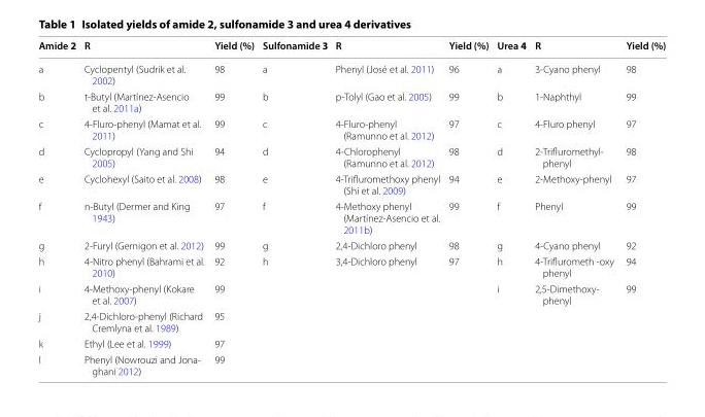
<table><thead><tr><td>Amide 2</td><td>R</td><td>Yield (%)</td><td>Sulfonamide 3</td><td>R</td><td>Yield (%)</td><td>Urea 4</td><td>R</td><td>Yield (%)</td></tr></thead><tbody><tr><td>a</td><td>Cyclopentyl (Sudrik et al. 2002)</td><td>98</td><td>a</td><td>Phenyl (José et al. 2011)</td><td>96</td><td>a</td><td>3-Cyano phenyl</td><td>98</td></tr><tr><td>b</td><td>t-Butyl (Martínez-Asencio et al. 2011a)</td><td>99</td><td>b</td><td>p-Tolyl (Gao et al. 2005)</td><td>99</td><td>b</td><td>1-Naphthyl</td><td>99</td></tr><tr><td>c</td><td>4-Fluro-phenyl (Mamat et al. 2011)</td><td>99</td><td>c</td><td>4-Fluro-phenyl (Ramunno et al. 2012)</td><td>97</td><td>c</td><td>4-Fluro phenyl</td><td>97</td></tr><tr><td>d</td><td>Cyclopropyl (Yang and Shi 2005)</td><td>94</td><td>d</td><td>4-Chlorophenyl (Ramunno et al. 2012)</td><td>98</td><td>d</td><td>2-Trifluromethyl- phenyl</td><td>98</td></tr><tr><td>e</td><td>Cyclohexyl (Saito et al. 2008)</td><td>98</td><td>e</td><td>4-Trifluromethoxy phenyl (Shi et al. 2009)</td><td>94</td><td>e</td><td>2-Methoxy-phenyl</td><td>97</td></tr><tr><td>f</td><td>n-Butyl (Dermer and King 1943)</td><td>97</td><td>f</td><td>4-Methoxy phenyl (Martínez-Asencio et al. 2011b)</td><td>99</td><td>f</td><td>Phenyl</td><td>99</td></tr><tr><td>g</td><td>2-Furyl (Gernigon et al. 2012)</td><td>99</td><td>g</td><td>2,4-Dichloro phenyl</td><td>98</td><td>g</td><td>4-Cyano phenyl</td><td>92</td></tr><tr><td>h</td><td>4-Nitro phenyl (Bahrami et al. 2010)</td><td>92</td><td>h</td><td>3,4-Dichloro phenyl</td><td>97</td><td>h</td><td>4-Triflurometh -oxy phenyl</td><td>94</td></tr><tr><td>i</td><td>4-Methoxy-phenyl (Kokare et al. 2007)</td><td>99</td><td></td><td></td><td></td><td>i</td><td>2,5-Dimethoxy- phenyl</td><td>99</td></tr><tr><td>j</td><td>2,4-Dichloro-phenyl (Richard Cremlyna et al. 1989)</td><td>95</td><td></td><td></td><td></td><td></td><td></td><td></td></tr><tr><td>k</td><td>Ethyl (Lee et al. 1999)</td><td>97</td><td></td><td></td><td></td><td></td><td></td><td></td></tr><tr><td>l</td><td>Phenyl (Nowrouzi and Jona- ghani 2012)</td><td>99</td><td></td><td></td><td></td><td></td><td></td><td></td></tr></tbody></table>